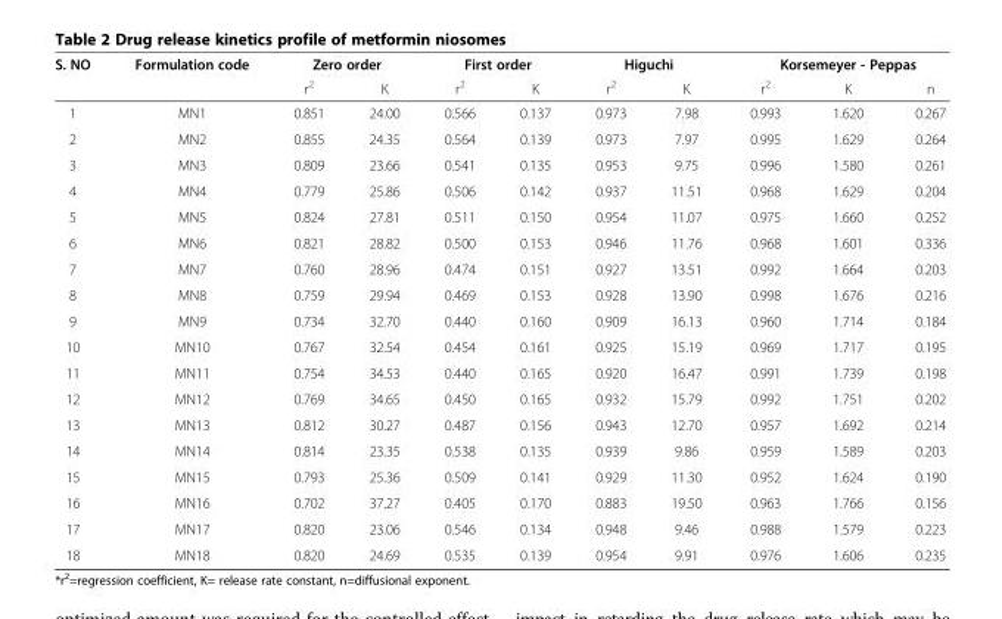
<table><thead><tr><td rowspan="2">S. NO</td><td rowspan="2">Formulation code</td><td colspan="2">Zero order</td><td colspan="2">First order</td><td colspan="2">Higuchi</td><td colspan="3">Korsemeyer - Peppas</td></tr><tr><td>r<sup>2</sup></td><td>K</td><td>r<sup>2</sup></td><td>K</td><td>r<sup>2</sup></td><td>K</td><td>r<sup>2</sup></td><td>K</td><td>n</td></tr></thead><tbody><tr><td>1</td><td>MN1</td><td>0.851</td><td>24.00</td><td>0.566</td><td>0.137</td><td>0.973</td><td>7.98</td><td>0.993</td><td>1.620</td><td>0.267</td></tr><tr><td>2</td><td>MN2</td><td>0.855</td><td>24.35</td><td>0.564</td><td>0.139</td><td>0.973</td><td>7.97</td><td>0.995</td><td>1.629</td><td>0.264</td></tr><tr><td>3</td><td>MN3</td><td>0.809</td><td>23.66</td><td>0.541</td><td>0.135</td><td>0.953</td><td>9.75</td><td>0.996</td><td>1.580</td><td>0.261</td></tr><tr><td>4</td><td>MN4</td><td>0.779</td><td>25.86</td><td>0.506</td><td>0.142</td><td>0.937</td><td>11.51</td><td>0.968</td><td>1.629</td><td>0.204</td></tr><tr><td>5</td><td>MN5</td><td>0.824</td><td>27.81</td><td>0.511</td><td>0.150</td><td>0.954</td><td>11.07</td><td>0.975</td><td>1.660</td><td>0.252</td></tr><tr><td>6</td><td>MN6</td><td>0.821</td><td>28.82</td><td>0.500</td><td>0.153</td><td>0.946</td><td>11.76</td><td>0.968</td><td>1.601</td><td>0.336</td></tr><tr><td>7</td><td>MN7</td><td>0.760</td><td>28.96</td><td>0.474</td><td>0.151</td><td>0.927</td><td>13.51</td><td>0.992</td><td>1.664</td><td>0.203</td></tr><tr><td>8</td><td>MN8</td><td>0.759</td><td>29.94</td><td>0.469</td><td>0.153</td><td>0.928</td><td>13.90</td><td>0.998</td><td>1.676</td><td>0.216</td></tr><tr><td>9</td><td>MN9</td><td>0.734</td><td>32.70</td><td>0.440</td><td>0.160</td><td>0.909</td><td>16.13</td><td>0.960</td><td>1.714</td><td>0.184</td></tr><tr><td>10</td><td>MN10</td><td>0.767</td><td>32.54</td><td>0.454</td><td>0.161</td><td>0.925</td><td>15.19</td><td>0.969</td><td>1.717</td><td>0.195</td></tr><tr><td>11</td><td>MN11</td><td>0.754</td><td>34.53</td><td>0.440</td><td>0.165</td><td>0.920</td><td>16.47</td><td>0.991</td><td>1.739</td><td>0.198</td></tr><tr><td>12</td><td>MN12</td><td>0.769</td><td>34.65</td><td>0.450</td><td>0.165</td><td>0.932</td><td>15.79</td><td>0.992</td><td>1.751</td><td>0.202</td></tr><tr><td>13</td><td>MN13</td><td>0.812</td><td>30.27</td><td>0.487</td><td>0.156</td><td>0.943</td><td>12.70</td><td>0.957</td><td>1.692</td><td>0.214</td></tr><tr><td>14</td><td>MN14</td><td>0.814</td><td>23.35</td><td>0.538</td><td>0.135</td><td>0.939</td><td>9.86</td><td>0.959</td><td>1.589</td><td>0.203</td></tr><tr><td>15</td><td>MN15</td><td>0.793</td><td>25.36</td><td>0.509</td><td>0.141</td><td>0.929</td><td>11.30</td><td>0.952</td><td>1.624</td><td>0.190</td></tr><tr><td>16</td><td>MN16</td><td>0.702</td><td>37.27</td><td>0.405</td><td>0.170</td><td>0.883</td><td>19.50</td><td>0.963</td><td>1.766</td><td>0.156</td></tr><tr><td>17</td><td>MN17</td><td>0.820</td><td>23.06</td><td>0.546</td><td>0.134</td><td>0.948</td><td>9.46</td><td>0.988</td><td>1.579</td><td>0.223</td></tr><tr><td>18</td><td>MN18</td><td>0.820</td><td>24.69</td><td>0.535</td><td>0.139</td><td>0.954</td><td>9.91</td><td>0.976</td><td>1.606</td><td>0.235</td></tr></tbody></table>